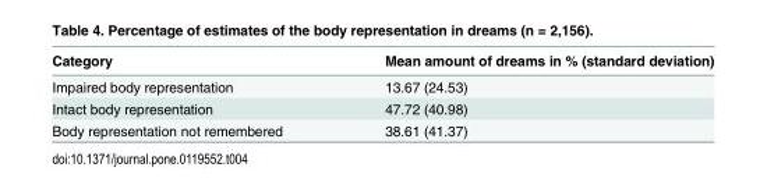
<table><thead><tr><td>Category</td><td>Mean amount of dreams in % (standard deviation)</td></tr></thead><tbody><tr><td>Impaired body representation</td><td>13.67 (24.53)</td></tr><tr><td>Intact body representation</td><td>47.72 (40.98)</td></tr><tr><td>Body representation not remembered</td><td>38.61 (41.37)</td></tr></tbody></table>